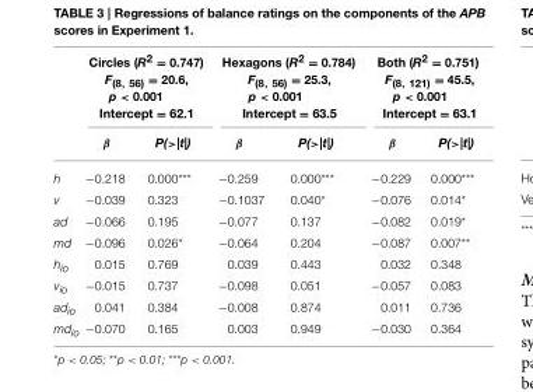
<table><thead><tr><td rowspan="2"></td><td colspan="2">Circles (R<sup>2</sup> = 0.747) F<sub>(8, 56)</sub> = 20.6, p &lt; 0.001 Intercept = 62.1</td><td colspan="2">Hexagons (R<sup>2</sup> = 0.784) F<sub>(8, 56)</sub> = 25.3, p &lt; 0.001 Intercept = 63.5</td><td colspan="2">Both (R<sup>2</sup> = 0.751) F<sub>(8, 121)</sub> = 45.5, p &lt; 0.001 Intercept = 63.1</td></tr><tr><td>β</td><td>P(&gt;|t|)</td><td>β</td><td>P(&gt;|t|)</td><td>β</td><td>P(&gt;|t|)</td></tr></thead><tbody><tr><td>h</td><td>−0.218</td><td>0.000***</td><td>−0.259</td><td>0.000***</td><td>−0.229</td><td>0.000***</td></tr><tr><td>v</td><td>−0.039</td><td>0.323</td><td>−0.1037</td><td>0.040*</td><td>−0.076</td><td>0.014*</td></tr><tr><td>ad</td><td>−0.066</td><td>0.195</td><td>−0.077</td><td>0.137</td><td>−0.082</td><td>0.019*</td></tr><tr><td>md</td><td>−0.096</td><td>0.026*</td><td>−0.064</td><td>0.204</td><td>−0.087</td><td>0.007**</td></tr><tr><td>hio</td><td>0.015</td><td>0.769</td><td>0.039</td><td>0.443</td><td>0.032</td><td>0.348</td></tr><tr><td>vio</td><td>−0.015</td><td>0.737</td><td>−0.098</td><td>0.051</td><td>−0.057</td><td>0.083</td></tr><tr><td>adio</td><td>0.041</td><td>0.384</td><td>−0.008</td><td>0.874</td><td>0.011</td><td>0.736</td></tr><tr><td>mdio</td><td>−0.070</td><td>0.165</td><td>0.003</td><td>0.949</td><td>−0.030</td><td>0.364</td></tr></tbody></table>